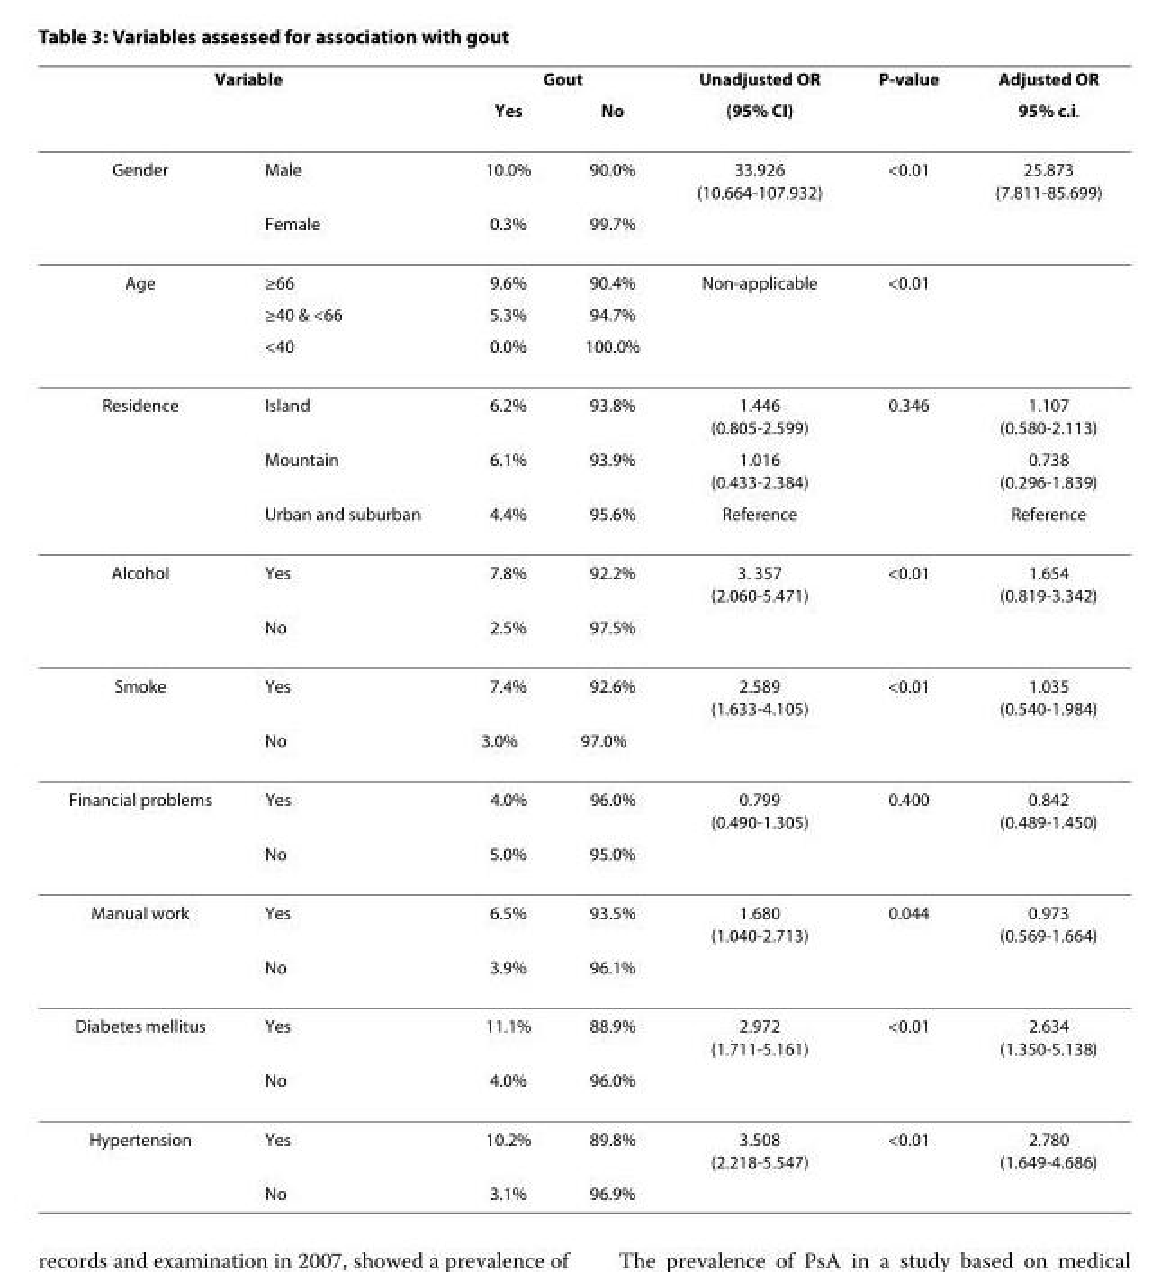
<table><thead><tr><td colspan="2">Variable</td><td colspan="2">Gout</td><td rowspan="2">Unadjusted OR (95% CI)</td><td rowspan="2">P-value</td><td rowspan="2">Adjusted OR 95% c.i.</td></tr><tr><td></td><td></td><td>Yes</td><td>No</td></tr></thead><tbody><tr><td rowspan="2">Gender</td><td>Male</td><td>10.0%</td><td>90.0%</td><td>33.926 (10.664-107.932)</td><td>&lt;0.01</td><td>25.873 (7.811-85.699)</td></tr><tr><td>Female</td><td>0.3%</td><td>99.7%</td><td></td><td></td><td></td></tr><tr><td rowspan="3">Age</td><td>≥66</td><td>9.6%</td><td>90.4%</td><td>Non-applicable</td><td>&lt;0.01</td><td></td></tr><tr><td>≥40 &amp; &lt;66</td><td>5.3%</td><td>94.7%</td><td></td><td></td><td></td></tr><tr><td>&lt;40</td><td>0.0%</td><td>100.0%</td><td></td><td></td><td></td></tr><tr><td rowspan="3">Residence</td><td>Island</td><td>6.2%</td><td>93.8%</td><td>1.446 (0.805-2.599)</td><td>0.346</td><td>1.107 (0.580-2.113)</td></tr><tr><td>Mountain</td><td>6.1%</td><td>93.9%</td><td>1.016 (0.433-2.384)</td><td></td><td>0.738 (0.296-1.839)</td></tr><tr><td>Urban and suburban</td><td>4.4%</td><td>95.6%</td><td>Reference</td><td></td><td>Reference</td></tr><tr><td rowspan="2">Alcohol</td><td>Yes</td><td>7.8%</td><td>92.2%</td><td>3. 357 (2.060-5.471)</td><td>&lt;0.01</td><td>1.654 (0.819-3.342)</td></tr><tr><td>No</td><td>2.5%</td><td>97.5%</td><td></td><td></td><td></td></tr><tr><td rowspan="2">Smoke</td><td>Yes</td><td>7.4%</td><td>92.6%</td><td>2.589 (1.633-4.105)</td><td>&lt;0.01</td><td>1.035 (0.540-1.984)</td></tr><tr><td>No</td><td>3.0%</td><td>97.0%</td><td></td><td></td><td></td></tr><tr><td rowspan="2">Financial problems</td><td>Yes</td><td>4.0%</td><td>96.0%</td><td>0.799 (0.490-1.305)</td><td>0.400</td><td>0.842 (0.489-1.450)</td></tr><tr><td>No</td><td>5.0%</td><td>95.0%</td><td></td><td></td><td></td></tr><tr><td rowspan="2">Manual work</td><td>Yes</td><td>6.5%</td><td>93.5%</td><td>1.680 (1.040-2.713)</td><td>0.044</td><td>0.973 (0.569-1.664)</td></tr><tr><td>No</td><td>3.9%</td><td>96.1%</td><td></td><td></td><td></td></tr><tr><td rowspan="2">Diabetes mellitus</td><td>Yes</td><td>11.1%</td><td>88.9%</td><td>2.972 (1.711-5.161)</td><td>&lt;0.01</td><td>2.634 (1.350-5.138)</td></tr><tr><td>No</td><td>4.0%</td><td>96.0%</td><td></td><td></td><td></td></tr><tr><td rowspan="2">Hypertension</td><td>Yes</td><td>10.2%</td><td>89.8%</td><td>3.508 (2.218-5.547)</td><td>&lt;0.01</td><td>2.780 (1.649-4.686)</td></tr><tr><td>No</td><td>3.1%</td><td>96.9%</td><td></td><td></td><td></td></tr></tbody></table>